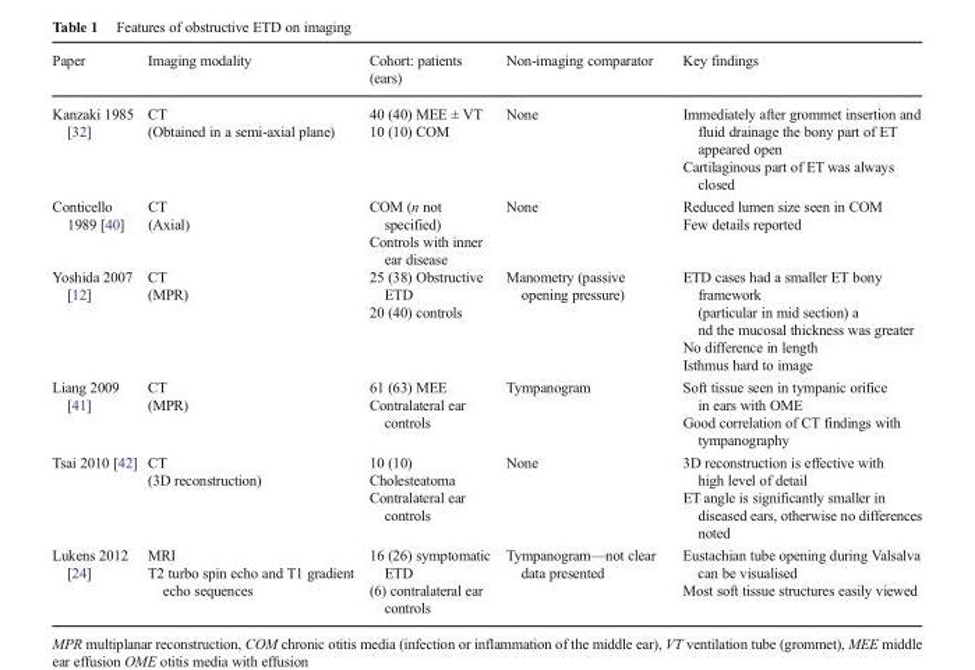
<table><thead><tr><td>Paper</td><td>Imaging modality</td><td>Cohort: patients (ears)</td><td>Non-imaging comparator</td><td>Key findings</td></tr></thead><tbody><tr><td>Kanzaki 1985 [32]</td><td>CT (Obtained in a semi-axial plane)</td><td>40 (40) MEE ± VT 10 (10) COM</td><td>None</td><td>Immediately after grommet insertion and fluid drainage the bony part of ET appeared open Cartilaginous part of ET was always closed</td></tr><tr><td>Conticello 1989 [40]</td><td>CT (Axial)</td><td>COM (n not specified) Controls with inner ear disease</td><td>None</td><td>Reduced lumen size seen in COM Few details reported</td></tr><tr><td>Yoshida 2007 [12]</td><td>CT (MPR)</td><td>25 (38) Obstructive ETD 20 (40) controls</td><td>Manometry (passive opening pressure)</td><td>ETD cases had a smaller ET bony framework (particular in mid section) a nd the mucosal thickness was greater No difference in length Isthmus hard to image</td></tr><tr><td>Liang 2009 [41]</td><td>CT (MPR)</td><td>61 (63) MEE Contralateral ear controls</td><td>Tympanogram</td><td>Soft tissue seen in tympanic orifice in ears with OME Good correlation of CT findings with tympanography</td></tr><tr><td>Tsai 2010 [42]</td><td>CT (3D reconstruction)</td><td>10 (10) Cholesteatoma Contralateral ear controls</td><td>None</td><td>3D reconstruction is effective with high level of detail ET angle is significantly smaller in diseased ears, otherwise no differences noted</td></tr><tr><td>Lukens 2012 [24]</td><td>MRI T2 turbo spin echo and T1 gradient echo sequences</td><td>16 (26) symptomatic ETD (6) contralateral ear controls</td><td>Tympanogram—not clear data presented</td><td>Eustachian tube opening during Valsalva can be visualised Most soft tissue structures easily viewed</td></tr></tbody></table>